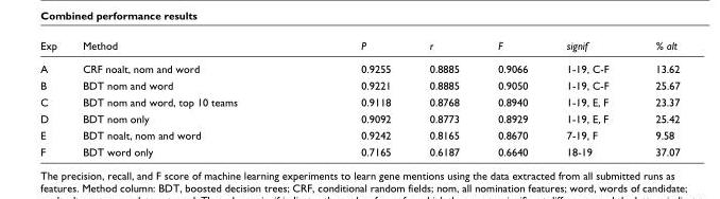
<table><thead><tr><td>Exp</td><td>Method</td><td>P</td><td>r</td><td>F</td><td>signif</td><td>% alt</td></tr></thead><tbody><tr><td>A</td><td>CRF noalt, nom and word</td><td>0.9255</td><td>0.8885</td><td>0.9066</td><td>1-19, C-F</td><td>13.62</td></tr><tr><td>B</td><td>BDT nom and word</td><td>0.9221</td><td>0.8885</td><td>0.9050</td><td>1-19, C-F</td><td>25.67</td></tr><tr><td>C</td><td>BDT nom and word, top 10 teams</td><td>0.9118</td><td>0.8768</td><td>0.8940</td><td>1-19, E, F</td><td>23.37</td></tr><tr><td>D</td><td>BDT nom only</td><td>0.9092</td><td>0.8773</td><td>0.8929</td><td>1-19, E, F</td><td>25.42</td></tr><tr><td>E</td><td>BDT noalt, nom and word</td><td>0.9242</td><td>0.8165</td><td>0.8670</td><td>7-19, F</td><td>9.58</td></tr><tr><td>F</td><td>BDT word only</td><td>0.7165</td><td>0.6187</td><td>0.6640</td><td>18-19</td><td>37.07</td></tr></tbody></table>